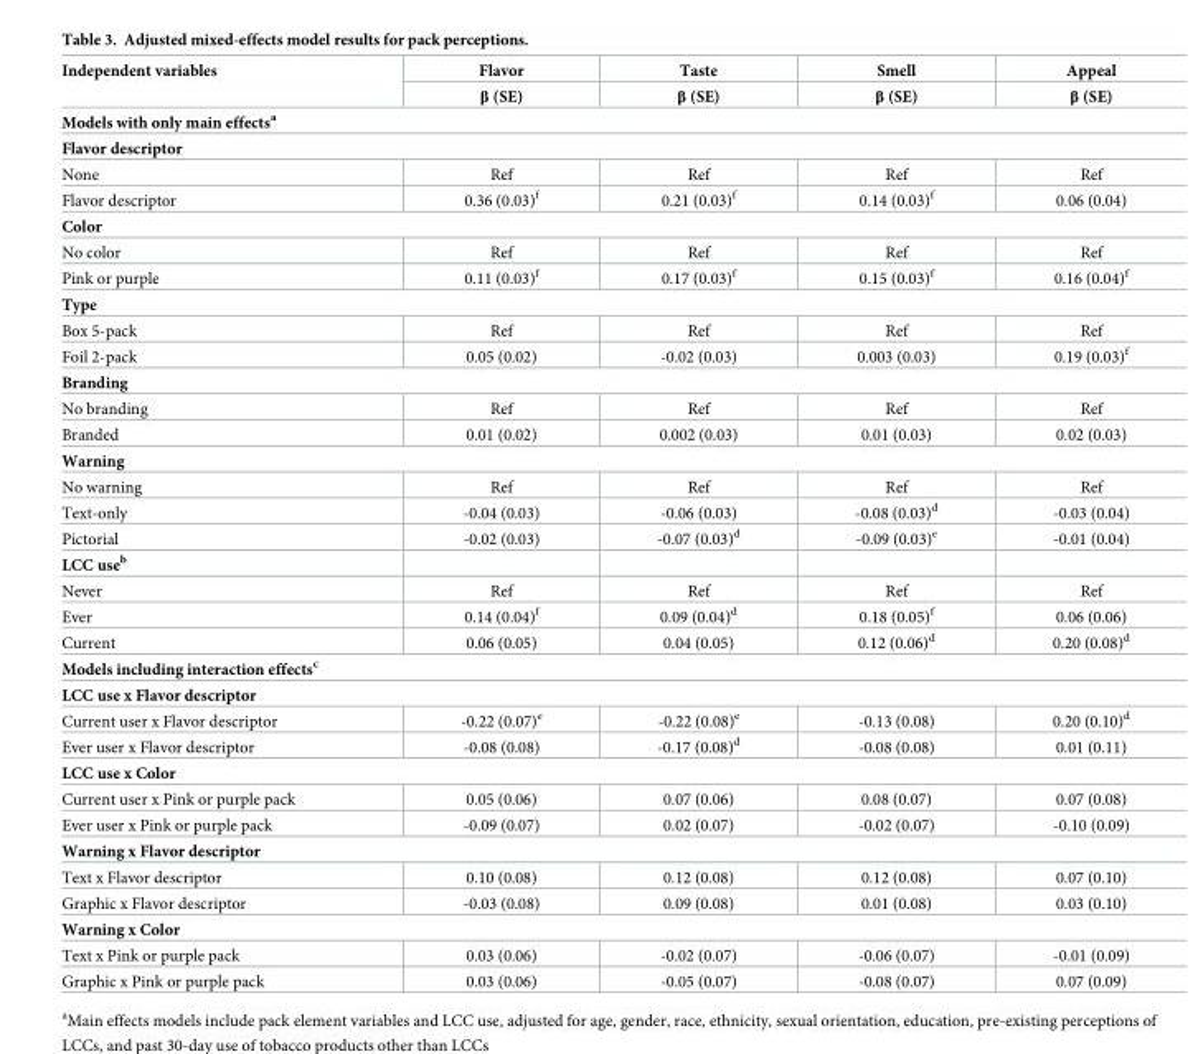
<table><thead><tr><td rowspan="2">Independent variables</td><td rowspan="2">Flavor β (SE)</td><td rowspan="2">Taste β (SE)</td><td rowspan="2">Smell β (SE)</td><td rowspan="2">Appeal β (SE)</td></tr><tr></tr></thead><tbody><tr><td colspan="5">Models with only main effects<sup>a</sup></td></tr><tr><td colspan="5">Flavor descriptor</td></tr><tr><td>None</td><td>Ref</td><td>Ref</td><td>Ref</td><td>Ref</td></tr><tr><td>Flavor descriptor</td><td>0.36 (0.03)<sup>f</sup></td><td>0.21 (0.03)<sup>f</sup></td><td>0.14 (0.03)<sup>f</sup></td><td>0.06 (0.04)</td></tr><tr><td colspan="5">Color</td></tr><tr><td>No color</td><td>Ref</td><td>Ref</td><td>Ref</td><td>Ref</td></tr><tr><td>Pink or purple</td><td>0.11 (0.03)<sup>f</sup></td><td>0.17 (0.03)<sup>f</sup></td><td>0.15 (0.03)<sup>f</sup></td><td>0.16 (0.04)<sup>f</sup></td></tr><tr><td colspan="5">Type</td></tr><tr><td>Box 5-pack</td><td>Ref</td><td>Ref</td><td>Ref</td><td>Ref</td></tr><tr><td>Foil 2-pack</td><td>0.05 (0.02)</td><td>-0.02 (0.03)</td><td>0.003 (0.03)</td><td>0.19 (0.03)<sup>f</sup></td></tr><tr><td colspan="5">Branding</td></tr><tr><td>No branding</td><td>Ref</td><td>Ref</td><td>Ref</td><td>Ref</td></tr><tr><td>Branded</td><td>0.01 (0.02)</td><td>0.002 (0.03)</td><td>0.01 (0.03)</td><td>0.02 (0.03)</td></tr><tr><td colspan="5">Warning</td></tr><tr><td>No warning</td><td>Ref</td><td>Ref</td><td>Ref</td><td>Ref</td></tr><tr><td>Text-only</td><td>-0.04 (0.03)</td><td>-0.06 (0.03)</td><td>-0.08 (0.03)<sup>d</sup></td><td>-0.03 (0.04)</td></tr><tr><td>Pictorial</td><td>-0.02 (0.03)</td><td>-0.07 (0.03)<sup>d</sup></td><td>-0.09 (0.03)<sup>e</sup></td><td>-0.01 (0.04)</td></tr><tr><td colspan="5">LCC use<sup>b</sup></td></tr><tr><td>Never</td><td>Ref</td><td>Ref</td><td>Ref</td><td>Ref</td></tr><tr><td>Ever</td><td>0.14 (0.04)<sup>f</sup></td><td>0.09 (0.04)<sup>d</sup></td><td>0.18 (0.05)<sup>f</sup></td><td>0.06 (0.06)</td></tr><tr><td>Current</td><td>0.06 (0.05)</td><td>0.04 (0.05)</td><td>0.12 (0.06)<sup>d</sup></td><td>0.20 (0.08)<sup>d</sup></td></tr><tr><td colspan="5">Models including interaction effects<sup>c</sup></td></tr><tr><td colspan="5">LCC use x Flavor descriptor</td></tr><tr><td>Current user x Flavor descriptor</td><td>-0.22 (0.07)<sup>e</sup></td><td>-0.22 (0.08)<sup>e</sup></td><td>-0.13 (0.08)</td><td>0.20 (0.10)<sup>d</sup></td></tr><tr><td>Ever user x Flavor descriptor</td><td>-0.08 (0.08)</td><td>-0.17 (0.08)<sup>d</sup></td><td>-0.08 (0.08)</td><td>0.01 (0.11)</td></tr><tr><td colspan="5">LCC use x Color</td></tr><tr><td>Current user x Pink or purple pack</td><td>0.05 (0.06)</td><td>0.07 (0.06)</td><td>0.08 (0.07)</td><td>0.07 (0.08)</td></tr><tr><td>Ever user x Pink or purple pack</td><td>-0.09 (0.07)</td><td>0.02 (0.07)</td><td>-0.02 (0.07)</td><td>-0.10 (0.09)</td></tr><tr><td colspan="5">Warning x Flavor descriptor</td></tr><tr><td>Text x Flavor descriptor</td><td>0.10 (0.08)</td><td>0.12 (0.08)</td><td>0.12 (0.08)</td><td>0.07 (0.10)</td></tr><tr><td>Graphic x Flavor descriptor</td><td>-0.03 (0.08)</td><td>0.09 (0.08)</td><td>0.01 (0.08)</td><td>0.03 (0.10)</td></tr><tr><td colspan="5">Warning x Color</td></tr><tr><td>Text x Pink or purple pack</td><td>0.03 (0.06)</td><td>-0.02 (0.07)</td><td>-0.06 (0.07)</td><td>-0.01 (0.09)</td></tr><tr><td>Graphic x Pink or purple pack</td><td>0.03 (0.06)</td><td>-0.05 (0.07)</td><td>-0.08 (0.07)</td><td>0.07 (0.09)</td></tr></tbody></table>